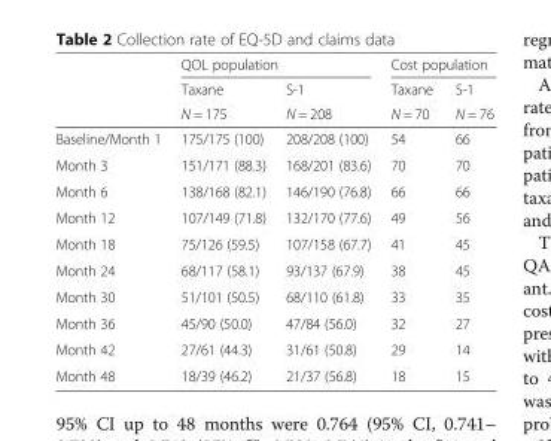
<table><thead><tr><td rowspan="3"></td><td colspan="2">QOL population</td><td colspan="2">Cost population</td></tr><tr><td rowspan="2">Taxane N = 175</td><td rowspan="2">S-1 N = 208</td><td rowspan="2">Taxane N = 70</td><td rowspan="2">S-1 N = 76</td></tr><tr></tr></thead><tbody><tr><td>Baseline/Month 1</td><td>175/175 (100)</td><td>208/208 (100)</td><td>54</td><td>66</td></tr><tr><td>Month 3</td><td>151/171 (88.3)</td><td>168/201 (83.6)</td><td>70</td><td>70</td></tr><tr><td>Month 6</td><td>138/168 (82.1)</td><td>146/190 (76.8)</td><td>66</td><td>66</td></tr><tr><td>Month 12</td><td>107/149 (71.8)</td><td>132/170 (77.6)</td><td>49</td><td>56</td></tr><tr><td>Month 18</td><td>75/126 (59.5)</td><td>107/158 (67.7)</td><td>41</td><td>45</td></tr><tr><td>Month 24</td><td>68/117 (58.1)</td><td>93/137 (67.9)</td><td>38</td><td>45</td></tr><tr><td>Month 30</td><td>51/101 (50.5)</td><td>68/110 (61.8)</td><td>33</td><td>35</td></tr><tr><td>Month 36</td><td>45/90 (50.0)</td><td>47/84 (56.0)</td><td>32</td><td>27</td></tr><tr><td>Month 42</td><td>27/61 (44.3)</td><td>31/61 (50.8)</td><td>29</td><td>14</td></tr><tr><td>Month 48</td><td>18/39 (46.2)</td><td>21/37 (56.8)</td><td>18</td><td>15</td></tr></tbody></table>